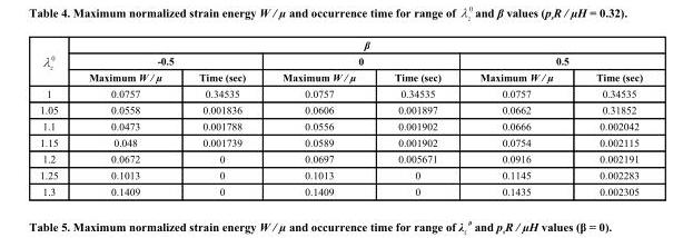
<table><thead><tr><td rowspan="3">λ <sub>z</sub><sup>0</sup></td><td colspan="6">β</td></tr><tr><td colspan="2">-0.5</td><td colspan="2">0</td><td colspan="2">0.5</td></tr><tr><td>Maximum W / µ</td><td>Time (sec)</td><td>Maximum W / µ</td><td>Time (sec)</td><td>Maximum W / µ</td><td>Time (sec)</td></tr></thead><tbody><tr><td>1</td><td>0.0757</td><td>0.34535</td><td>0.0757</td><td>0.34535</td><td>0.0757</td><td>0.34535</td></tr><tr><td>1.05</td><td>0.0558</td><td>0.001836</td><td>0.0606</td><td>0.001897</td><td>0.0662</td><td>0.31852</td></tr><tr><td>1.1</td><td>0.0473</td><td>0.001788</td><td>0.0556</td><td>0.001902</td><td>0.0666</td><td>0.002042</td></tr><tr><td>1.15</td><td>0.048</td><td>0.001739</td><td>0.0589</td><td>0.001902</td><td>0.0754</td><td>0.002115</td></tr><tr><td>1.2</td><td>0.0672</td><td>0</td><td>0.0697</td><td>0.005671</td><td>0.0916</td><td>0.002191</td></tr><tr><td>1.25</td><td>0.1013</td><td>0</td><td>0.1013</td><td>0</td><td>0.1145</td><td>0.002283</td></tr><tr><td>1.3</td><td>0.1409</td><td>0</td><td>0.1409</td><td>0</td><td>0.1435</td><td>0.002305</td></tr></tbody></table>